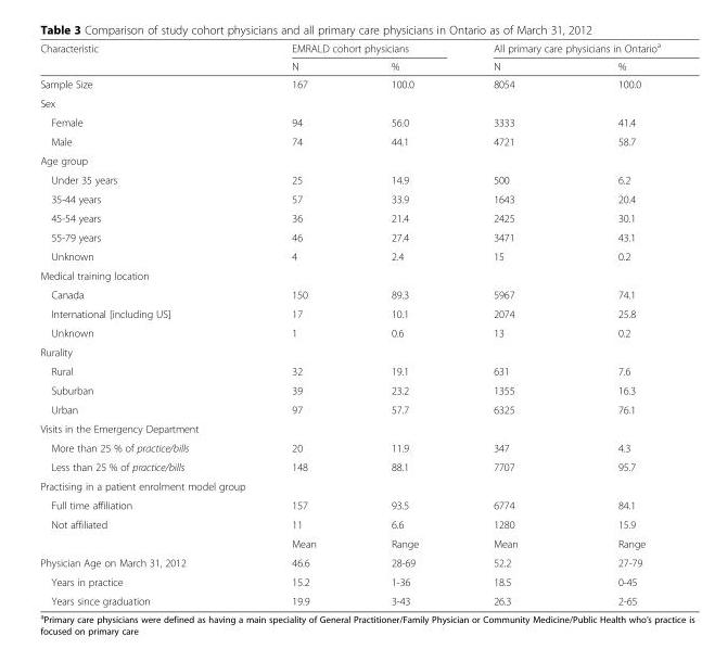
<table><thead><tr><td rowspan="2">Characteristic</td><td colspan="2">EMRALD cohort physicians</td><td colspan="2">All primary care physicians in Ontario<sup>a</sup></td></tr><tr><td>N</td><td>%</td><td>N</td><td>%</td></tr></thead><tbody><tr><td>Sample Size</td><td>167</td><td>100.0</td><td>8054</td><td>100.0</td></tr><tr><td colspan="5">Sex</td></tr><tr><td>Female</td><td>94</td><td>56.0</td><td>3333</td><td>41.4</td></tr><tr><td>Male</td><td>74</td><td>44.1</td><td>4721</td><td>58.7</td></tr><tr><td colspan="5">Age group</td></tr><tr><td>Under 35 years</td><td>25</td><td>14.9</td><td>500</td><td>6.2</td></tr><tr><td>35-44 years</td><td>57</td><td>33.9</td><td>1643</td><td>20.4</td></tr><tr><td>45-54 years</td><td>36</td><td>21.4</td><td>2425</td><td>30.1</td></tr><tr><td>55-79 years</td><td>46</td><td>27.4</td><td>3471</td><td>43.1</td></tr><tr><td>Unknown</td><td>4</td><td>2.4</td><td>15</td><td>0.2</td></tr><tr><td colspan="5">Medical training location</td></tr><tr><td>Canada</td><td>150</td><td>89.3</td><td>5967</td><td>74.1</td></tr><tr><td>International [including US]</td><td>17</td><td>10.1</td><td>2074</td><td>25.8</td></tr><tr><td>Unknown</td><td>1</td><td>0.6</td><td>13</td><td>0.2</td></tr><tr><td colspan="5">Rurality</td></tr><tr><td>Rural</td><td>32</td><td>19.1</td><td>631</td><td>7.6</td></tr><tr><td>Suburban</td><td>39</td><td>23.2</td><td>1355</td><td>16.3</td></tr><tr><td>Urban</td><td>97</td><td>57.7</td><td>6325</td><td>76.1</td></tr><tr><td colspan="5">Visits in the Emergency Department</td></tr><tr><td>More than 25 % of practice/bills</td><td>20</td><td>11.9</td><td>347</td><td>4.3</td></tr><tr><td>Less than 25 % of practice/bills</td><td>148</td><td>88.1</td><td>7707</td><td>95.7</td></tr><tr><td colspan="5">Practising in a patient enrolment model group</td></tr><tr><td>Full time affiliation</td><td>157</td><td>93.5</td><td>6774</td><td>84.1</td></tr><tr><td rowspan="2">Not affiliated</td><td>11</td><td>6.6</td><td>1280</td><td>15.9</td></tr><tr><td>Mean</td><td>Range</td><td>Mean</td><td>Range</td></tr><tr><td>Physician Age on March 31, 2012</td><td>46.6</td><td>28-69</td><td>52.2</td><td>27-79</td></tr><tr><td>Years in practice</td><td>15.2</td><td>1-36</td><td>18.5</td><td>0-45</td></tr><tr><td>Years since graduation</td><td>19.9</td><td>3-43</td><td>26.3</td><td>2-65</td></tr></tbody></table>